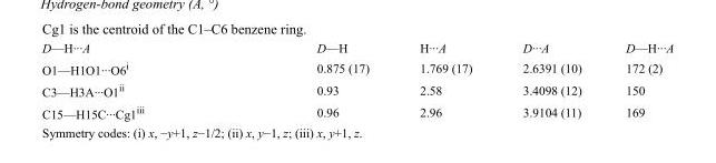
<table><tbody><tr><td>D—H···A</td><td>D—H</td><td>H···A</td><td>D···A</td><td>D—H···A</td></tr><tr><td>O1—H1O1···O6<sup>i</sup></td><td>0.875 (17)</td><td>1.769 (17)</td><td>2.6391 (10)</td><td>172 (2)</td></tr><tr><td>C3—H3A···O1<sup>ii</sup></td><td>0.93</td><td>2.58</td><td>3.4098 (12)</td><td>150</td></tr><tr><td>C15—H15C···Cg1<sup>iii</sup></td><td>0.96</td><td>2.96</td><td>3.9104 (11)</td><td>169</td></tr></tbody></table>